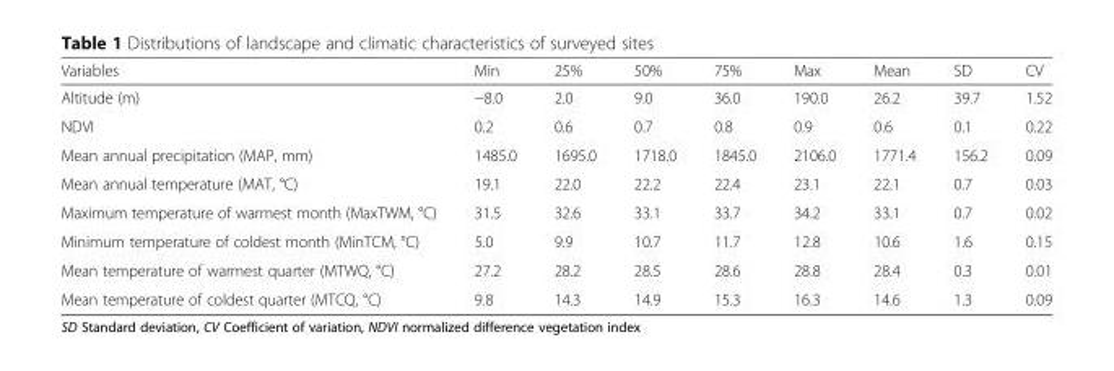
<table><thead><tr><td>Variables</td><td>Min</td><td>25%</td><td>50%</td><td>75%</td><td>Max</td><td>Mean</td><td>SD</td><td>CV</td></tr></thead><tbody><tr><td>Altitude (m)</td><td>−8.0</td><td>2.0</td><td>9.0</td><td>36.0</td><td>190.0</td><td>26.2</td><td>39.7</td><td>1.52</td></tr><tr><td>NDVI</td><td>0.2</td><td>0.6</td><td>0.7</td><td>0.8</td><td>0.9</td><td>0.6</td><td>0.1</td><td>0.22</td></tr><tr><td>Mean annual precipitation (MAP, mm)</td><td>1485.0</td><td>1695.0</td><td>1718.0</td><td>1845.0</td><td>2106.0</td><td>1771.4</td><td>156.2</td><td>0.09</td></tr><tr><td>Mean annual temperature (MAT, °C)</td><td>19.1</td><td>22.0</td><td>22.2</td><td>22.4</td><td>23.1</td><td>22.1</td><td>0.7</td><td>0.03</td></tr><tr><td>Maximum temperature of warmest month (MaxTWM, °C)</td><td>31.5</td><td>32.6</td><td>33.1</td><td>33.7</td><td>34.2</td><td>33.1</td><td>0.7</td><td>0.02</td></tr><tr><td>Minimum temperature of coldest month (MinTCM, °C)</td><td>5.0</td><td>9.9</td><td>10.7</td><td>11.7</td><td>12.8</td><td>10.6</td><td>1.6</td><td>0.15</td></tr><tr><td>Mean temperature of warmest quarter (MTWQ, °C)</td><td>27.2</td><td>28.2</td><td>28.5</td><td>28.6</td><td>28.8</td><td>28.4</td><td>0.3</td><td>0.01</td></tr><tr><td>Mean temperature of coldest quarter (MTCQ, °C)</td><td>9.8</td><td>14.3</td><td>14.9</td><td>15.3</td><td>16.3</td><td>14.6</td><td>1.3</td><td>0.09</td></tr></tbody></table>